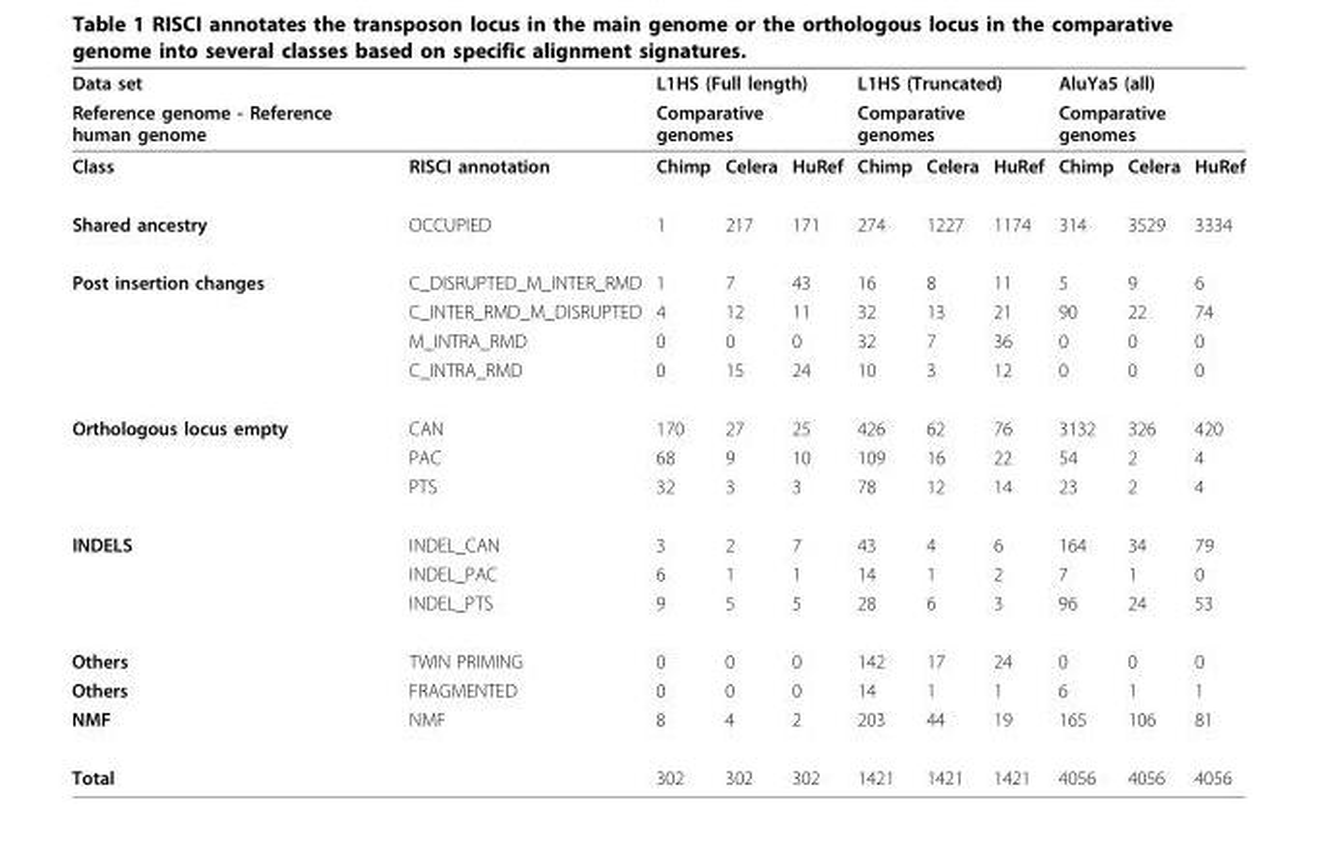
<table><thead><tr><td rowspan="3">Data set Reference genome - Reference human genome Class</td><td rowspan="3">RISCI annotation</td><td rowspan="2" colspan="3">L1HS (Full length) Comparative genomes</td><td rowspan="2" colspan="3">L1HS (Truncated) Comparative genomes</td><td rowspan="2" colspan="3">AluYa5 (all) Comparative genomes</td></tr><tr></tr><tr><td>Chimp</td><td>Celera</td><td>HuRef</td><td>Chimp</td><td>Celera</td><td>HuRef</td><td>Chimp</td><td>Celera</td><td>HuRef</td></tr></thead><tbody><tr><td>Shared ancestry</td><td>OCCUPIED</td><td>1</td><td>217</td><td>171</td><td>274</td><td>1227</td><td>1174</td><td>314</td><td>3529</td><td>3334</td></tr><tr><td rowspan="4">Post insertion changes</td><td>C_DISRUPTED_M_INTER_RMD</td><td>1</td><td>7</td><td>43</td><td>16</td><td>8</td><td>11</td><td>5</td><td>9</td><td>6</td></tr><tr><td>C_INTER_RMD_M_DISRUPTED</td><td>4</td><td>12</td><td>11</td><td>32</td><td>13</td><td>21</td><td>90</td><td>22</td><td>74</td></tr><tr><td>M_INTRA_RMD</td><td>0</td><td>0</td><td>0</td><td>32</td><td>7</td><td>36</td><td>0</td><td>0</td><td>0</td></tr><tr><td>C_INTRA_RMD</td><td>0</td><td>15</td><td>24</td><td>10</td><td>3</td><td>12</td><td>0</td><td>0</td><td>0</td></tr><tr><td rowspan="3">Orthologous locus empty</td><td>CAN</td><td>170</td><td>27</td><td>25</td><td>426</td><td>62</td><td>76</td><td>3132</td><td>326</td><td>420</td></tr><tr><td>PAC</td><td>68</td><td>9</td><td>10</td><td>109</td><td>16</td><td>22</td><td>54</td><td>2</td><td>4</td></tr><tr><td>PTS</td><td>32</td><td>3</td><td>3</td><td>78</td><td>12</td><td>14</td><td>23</td><td>2</td><td>4</td></tr><tr><td rowspan="3">INDELS</td><td>INDEL_CAN</td><td>3</td><td>2</td><td>7</td><td>43</td><td>4</td><td>6</td><td>164</td><td>34</td><td>79</td></tr><tr><td>INDEL_PAC</td><td>6</td><td>1</td><td>1</td><td>14</td><td>1</td><td>2</td><td>7</td><td>1</td><td>0</td></tr><tr><td>INDEL_PTS</td><td>9</td><td>5</td><td>5</td><td>28</td><td>6</td><td>3</td><td>96</td><td>24</td><td>53</td></tr><tr><td>Others</td><td>TWIN PRIMING</td><td>0</td><td>0</td><td>0</td><td>142</td><td>17</td><td>24</td><td>0</td><td>0</td><td>0</td></tr><tr><td>Others</td><td>FRAGMENTED</td><td>0</td><td>0</td><td>0</td><td>14</td><td>1</td><td>1</td><td>6</td><td>1</td><td>1</td></tr><tr><td>NMF</td><td>NMF</td><td>8</td><td>4</td><td>2</td><td>203</td><td>44</td><td>19</td><td>165</td><td>106</td><td>81</td></tr><tr><td>Total</td><td></td><td>302</td><td>302</td><td>302</td><td>1421</td><td>1421</td><td>1421</td><td>4056</td><td>4056</td><td>4056</td></tr></tbody></table>